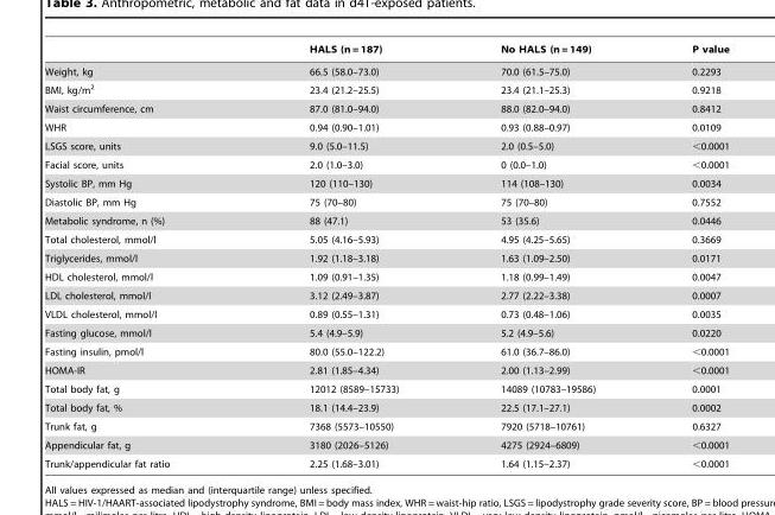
<table><thead><tr><td></td><td>HALS (n = 187)</td><td>No HALS (n = 149)</td><td>P value</td></tr></thead><tbody><tr><td>Weight, kg</td><td>66.5 (58.0–73.0)</td><td>70.0 (61.5–75.0)</td><td>0.2293</td></tr><tr><td>BMI, kg/m<sup>2</sup></td><td>23.4 (21.2–25.5)</td><td>23.4 (21.1–25.3)</td><td>0.9218</td></tr><tr><td>Waist circumference, cm</td><td>87.0 (81.0–94.0)</td><td>88.0 (82.0–94.0)</td><td>0.8412</td></tr><tr><td>WHR</td><td>0.94 (0.90–1.01)</td><td>0.93 (0.88–0.97)</td><td>0.0109</td></tr><tr><td>LSGS score, units</td><td>9.0 (5.0–11.5)</td><td>2.0 (0.5–5.0)</td><td>&lt;0.0001</td></tr><tr><td>Facial score, units</td><td>2.0 (1.0–3.0)</td><td>0 (0.0–1.0)</td><td>&lt;0.0001</td></tr><tr><td>Systolic BP, mm Hg</td><td>120 (110–130)</td><td>114 (108–130)</td><td>0.0034</td></tr><tr><td>Diastolic BP, mm Hg</td><td>75 (70–80)</td><td>75 (70–80)</td><td>0.7552</td></tr><tr><td>Metabolic syndrome, n (%)</td><td>88 (47.1)</td><td>53 (35.6)</td><td>0.0446</td></tr><tr><td>Total cholesterol, mmol/l</td><td>5.05 (4.16–5.93)</td><td>4.95 (4.25–5.65)</td><td>0.3669</td></tr><tr><td>Triglycerides, mmol/l</td><td>1.92 (1.18–3.18)</td><td>1.63 (1.09–2.50)</td><td>0.0171</td></tr><tr><td>HDL cholesterol, mmol/l</td><td>1.09 (0.91–1.35)</td><td>1.18 (0.99–1.49)</td><td>0.0047</td></tr><tr><td>LDL cholesterol, mmol/l</td><td>3.12 (2.49–3.87)</td><td>2.77 (2.22–3.38)</td><td>0.0007</td></tr><tr><td>VLDL cholesterol, mmol/l</td><td>0.89 (0.55–1.31)</td><td>0.73 (0.48–1.06)</td><td>0.0035</td></tr><tr><td>Fasting glucose, mmol/l</td><td>5.4 (4.9–5.9)</td><td>5.2 (4.9–5.6)</td><td>0.0220</td></tr><tr><td>Fasting insulin, pmol/l</td><td>80.0 (55.0–122.2)</td><td>61.0 (36.7–86.0)</td><td>&lt;0.0001</td></tr><tr><td>HOMA-IR</td><td>2.81 (1.85–4.34)</td><td>2.00 (1.13–2.99)</td><td>&lt;0.0001</td></tr><tr><td>Total body fat, g</td><td>12012 (8589–15733)</td><td>14089 (10783–19586)</td><td>0.0001</td></tr><tr><td>Total body fat, %</td><td>18.1 (14.4–23.9)</td><td>22.5 (17.1–27.1)</td><td>0.0002</td></tr><tr><td>Trunk fat, g</td><td>7368 (5573–10550)</td><td>7920 (5718–10761)</td><td>0.6327</td></tr><tr><td>Appendicular fat, g</td><td>3180 (2026–5126)</td><td>4275 (2924–6809)</td><td>&lt;0.0001</td></tr><tr><td>Trunk/appendicular fat ratio</td><td>2.25 (1.68–3.01)</td><td>1.64 (1.15–2.37)</td><td>&lt;0.0001</td></tr></tbody></table>